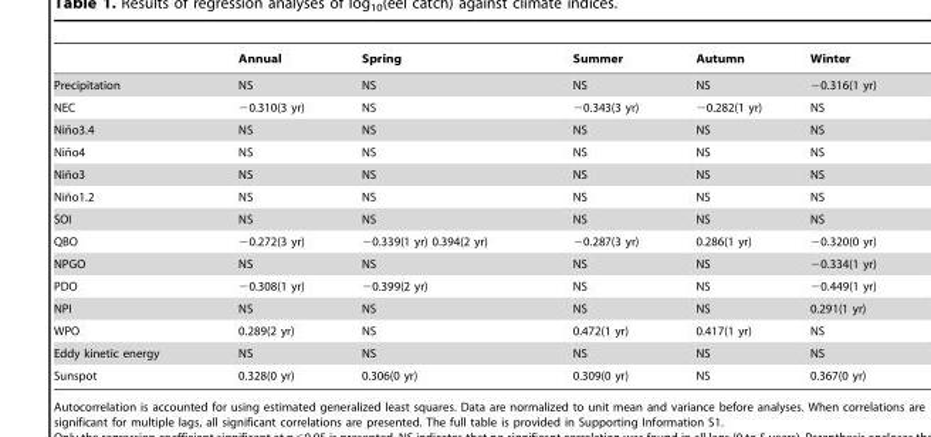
<table><thead><tr><td></td><td>Annual</td><td>Spring</td><td>Summer</td><td>Autumn</td><td>Winter</td></tr></thead><tbody><tr><td>Precipitation</td><td>NS</td><td>NS</td><td>NS</td><td>NS</td><td>−0.316(1 yr)</td></tr><tr><td>NEC</td><td>−0.310(3 yr)</td><td>NS</td><td>−0.343(3 yr)</td><td>−0.282(1 yr)</td><td>NS</td></tr><tr><td>Nin˜o3.4</td><td>NS</td><td>NS</td><td>NS</td><td>NS</td><td>NS</td></tr><tr><td>Nin˜o4</td><td>NS</td><td>NS</td><td>NS</td><td>NS</td><td>NS</td></tr><tr><td>Nin˜o3</td><td>NS</td><td>NS</td><td>NS</td><td>NS</td><td>NS</td></tr><tr><td>Nin˜o1.2</td><td>NS</td><td>NS</td><td>NS</td><td>NS</td><td>NS</td></tr><tr><td>SOI</td><td>NS</td><td>NS</td><td>NS</td><td>NS</td><td>NS</td></tr><tr><td>QBO</td><td>−0.272(3 yr)</td><td>−0.339(1 yr) 0.394(2 yr)</td><td>−0.287(3 yr)</td><td>0.286(1 yr)</td><td>−0.320(0 yr)</td></tr><tr><td>NPGO</td><td>NS</td><td>NS</td><td>NS</td><td>NS</td><td>−0.334(1 yr)</td></tr><tr><td>PDO</td><td>−0.308(1 yr)</td><td>−0.399(2 yr)</td><td>NS</td><td>NS</td><td>−0.449(1 yr)</td></tr><tr><td>NPI</td><td>NS</td><td>NS</td><td>NS</td><td>NS</td><td>0.291(1 yr)</td></tr><tr><td>WPO</td><td>0.289(2 yr)</td><td>NS</td><td>0.472(1 yr)</td><td>0.417(1 yr)</td><td>NS</td></tr><tr><td>Eddy kinetic energy</td><td>NS</td><td>NS</td><td>NS</td><td>NS</td><td>NS</td></tr><tr><td>Sunspot</td><td>0.328(0 yr)</td><td>0.306(0 yr)</td><td>0.309(0 yr)</td><td>NS</td><td>0.367(0 yr)</td></tr></tbody></table>